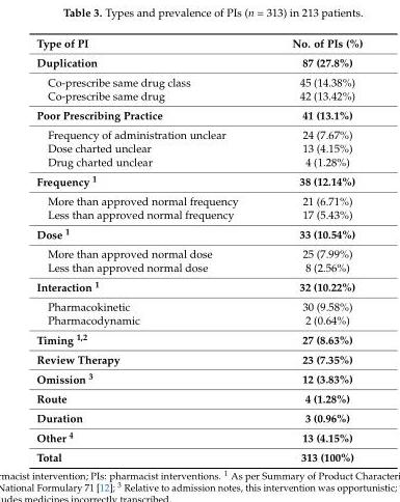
<table><thead><tr><td>Type of PI</td><td>No. of PIs (%)</td></tr></thead><tbody><tr><td>Duplication</td><td>87 (27.8%)</td></tr><tr><td>Co-prescribe same drug class</td><td>45 (14.38%)</td></tr><tr><td>Co-prescribe same drug</td><td>42 (13.42%)</td></tr><tr><td>Poor Prescribing Practice</td><td>41 (13.1%)</td></tr><tr><td>Frequency of administration unclear</td><td>24 (7.67%)</td></tr><tr><td>Dose charted unclear</td><td>13 (4.15%)</td></tr><tr><td>Drug charted unclear</td><td>4 (1.28%)</td></tr><tr><td>Frequency <sup>1</sup></td><td>38 (12.14%)</td></tr><tr><td>More than approved normal frequency</td><td>21 (6.71%)</td></tr><tr><td>Less than approved normal frequency</td><td>17 (5.43%)</td></tr><tr><td>Dose <sup>1</sup></td><td>33 (10.54%)</td></tr><tr><td>More than approved normal dose</td><td>25 (7.99%)</td></tr><tr><td>Less than approved normal dose</td><td>8 (2.56%)</td></tr><tr><td>Interaction <sup>1</sup></td><td>32 (10.22%)</td></tr><tr><td>Pharmacokinetic</td><td>30 (9.58%)</td></tr><tr><td>Pharmacodynamic</td><td>2 (0.64%)</td></tr><tr><td>Timing <sup>1,2</sup></td><td>27 (8.63%)</td></tr><tr><td>Review Therapy</td><td>23 (7.35%)</td></tr><tr><td>Omission <sup>3</sup></td><td>12 (3.83%)</td></tr><tr><td>Route</td><td>4 (1.28%)</td></tr><tr><td>Duration</td><td>3 (0.96%)</td></tr><tr><td>Other <sup>4</sup></td><td>13 (4.15%)</td></tr><tr><td>Total</td><td>313 (100%)</td></tr></tbody></table>